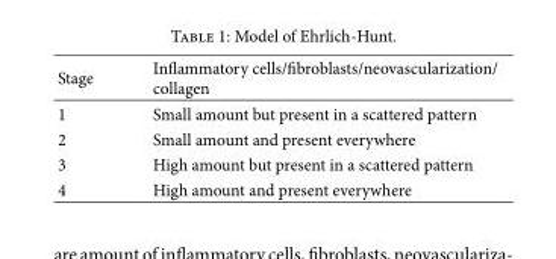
<table><thead><tr><td>Stage</td><td>In�ammatory cells/�broblasts/neovascularization/ collagen</td></tr></thead><tbody><tr><td>1</td><td>Small amount but present in a scattered pattern</td></tr><tr><td>2</td><td>Small amount and present everywhere</td></tr><tr><td>3</td><td>High amount but present in a scattered pattern</td></tr><tr><td>4</td><td>High amount and present everywhere</td></tr></tbody></table>